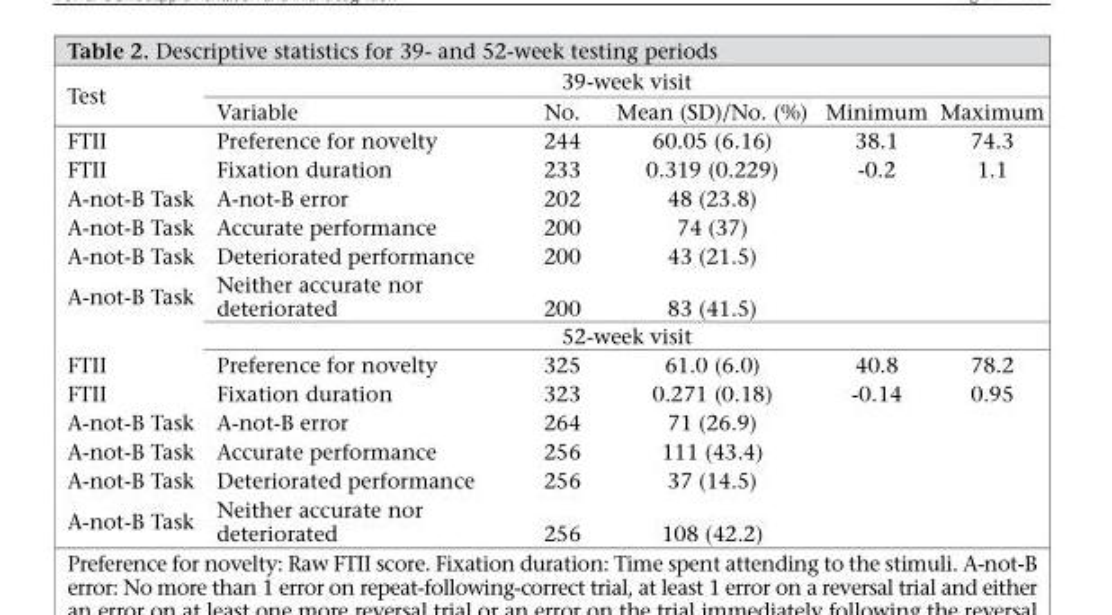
<table><thead><tr><td rowspan="2">Test</td><td colspan="5">39-week visit</td></tr><tr><td>Variable</td><td>No.</td><td>Mean (SD)/No. (%)</td><td>Minimum</td><td>Maximum</td></tr></thead><tbody><tr><td>FTII</td><td>Preference for novelty</td><td>244</td><td>60.05 (6.16)</td><td>38.1</td><td>74.3</td></tr><tr><td>FTII</td><td>Fixation duration</td><td>233</td><td>0.319 (0.229)</td><td>-0.2</td><td>1.1</td></tr><tr><td>A-not-B Task</td><td>A-not-B error</td><td>202</td><td>48 (23.8)</td><td></td><td></td></tr><tr><td>A-not-B Task</td><td>Accurate performance</td><td>200</td><td>74 (37)</td><td></td><td></td></tr><tr><td>A-not-B Task</td><td>Deteriorated performance</td><td>200</td><td>43 (21.5)</td><td></td><td></td></tr><tr><td rowspan="2">A-not-B Task</td><td>Neither accurate nor deteriorated</td><td>200</td><td>83 (41.5)</td><td></td><td></td></tr><tr><td colspan="5">52-week visit</td></tr><tr><td>FTII</td><td>Preference for novelty</td><td>325</td><td>61.0 (6.0)</td><td>40.8</td><td>78.2</td></tr><tr><td>FTII</td><td>Fixation duration</td><td>323</td><td>0.271 (0.18)</td><td>-0.14</td><td>0.95</td></tr><tr><td>A-not-B Task</td><td>A-not-B error</td><td>264</td><td>71 (26.9)</td><td></td><td></td></tr><tr><td>A-not-B Task</td><td>Accurate performance</td><td>256</td><td>111 (43.4)</td><td></td><td></td></tr><tr><td>A-not-B Task</td><td>Deteriorated performance</td><td>256</td><td>37 (14.5)</td><td></td><td></td></tr><tr><td>A-not-B Task</td><td>Neither accurate nor deteriorated</td><td>256</td><td>108 (42.2)</td><td></td><td></td></tr></tbody></table>